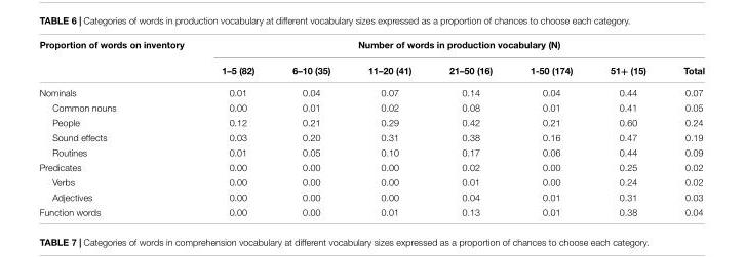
<table><thead><tr><td rowspan="2">Proportion of words on inventory</td><td colspan="7">Number of words in production vocabulary (N)</td></tr><tr><td>1–5 (82)</td><td>6–10 (35)</td><td>11–20 (41)</td><td>21–50 (16)</td><td>1-50 (174)</td><td>51+ (15)</td><td>Total</td></tr></thead><tbody><tr><td>Nominals</td><td>0.01</td><td>0.04</td><td>0.07</td><td>0.14</td><td>0.04</td><td>0.44</td><td>0.07</td></tr><tr><td>Common nouns</td><td>0.00</td><td>0.01</td><td>0.02</td><td>0.08</td><td>0.01</td><td>0.41</td><td>0.05</td></tr><tr><td>People</td><td>0.12</td><td>0.21</td><td>0.29</td><td>0.42</td><td>0.21</td><td>0.60</td><td>0.24</td></tr><tr><td>Sound effects</td><td>0.03</td><td>0.20</td><td>0.31</td><td>0.38</td><td>0.16</td><td>0.47</td><td>0.19</td></tr><tr><td>Routines</td><td>0.01</td><td>0.05</td><td>0.10</td><td>0.17</td><td>0.06</td><td>0.44</td><td>0.09</td></tr><tr><td>Predicates</td><td>0.00</td><td>0.00</td><td>0.00</td><td>0.02</td><td>0.00</td><td>0.25</td><td>0.02</td></tr><tr><td>Verbs</td><td>0.00</td><td>0.00</td><td>0.00</td><td>0.01</td><td>0.00</td><td>0.24</td><td>0.02</td></tr><tr><td>Adjectives</td><td>0.00</td><td>0.00</td><td>0.00</td><td>0.04</td><td>0.01</td><td>0.31</td><td>0.03</td></tr><tr><td>Function words</td><td>0.00</td><td>0.00</td><td>0.01</td><td>0.13</td><td>0.01</td><td>0.38</td><td>0.04</td></tr></tbody></table>